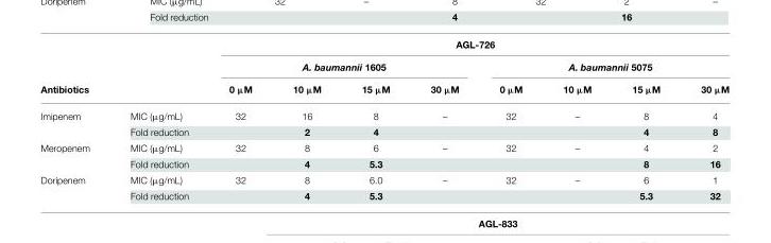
<table><thead><tr><td rowspan="3">Antibiotics</td><td rowspan="3"></td><td colspan="8">AGL-726</td></tr><tr><td colspan="4">A. baumannii 1605</td><td colspan="4">A. baumannii 5075</td></tr><tr><td>0 µM</td><td>10 µM</td><td>15 µM</td><td>30 µM</td><td>0 µM</td><td>10 µM</td><td>15 µM</td><td>30 µM</td></tr></thead><tbody><tr><td rowspan="2">Imipenem</td><td>MIC (µg/mL)</td><td>32</td><td>16</td><td>8</td><td>–</td><td>32</td><td>–</td><td>8</td><td>4</td></tr><tr><td>Fold reduction</td><td></td><td>2</td><td>4</td><td></td><td></td><td></td><td>4</td><td>8</td></tr><tr><td rowspan="2">Meropenem</td><td>MIC (µg/mL)</td><td>32</td><td>8</td><td>6</td><td>–</td><td>32</td><td>–</td><td>4</td><td>2</td></tr><tr><td>Fold reduction</td><td></td><td>4</td><td>5.3</td><td></td><td></td><td></td><td>8</td><td>16</td></tr><tr><td rowspan="2">Doripenem</td><td>MIC (µg/mL)</td><td>32</td><td>8</td><td>6.0</td><td>–</td><td>32</td><td>–</td><td>6</td><td>1</td></tr><tr><td>Fold reduction</td><td></td><td>4</td><td>5.3</td><td></td><td></td><td></td><td>5.3</td><td>32</td></tr></tbody></table>